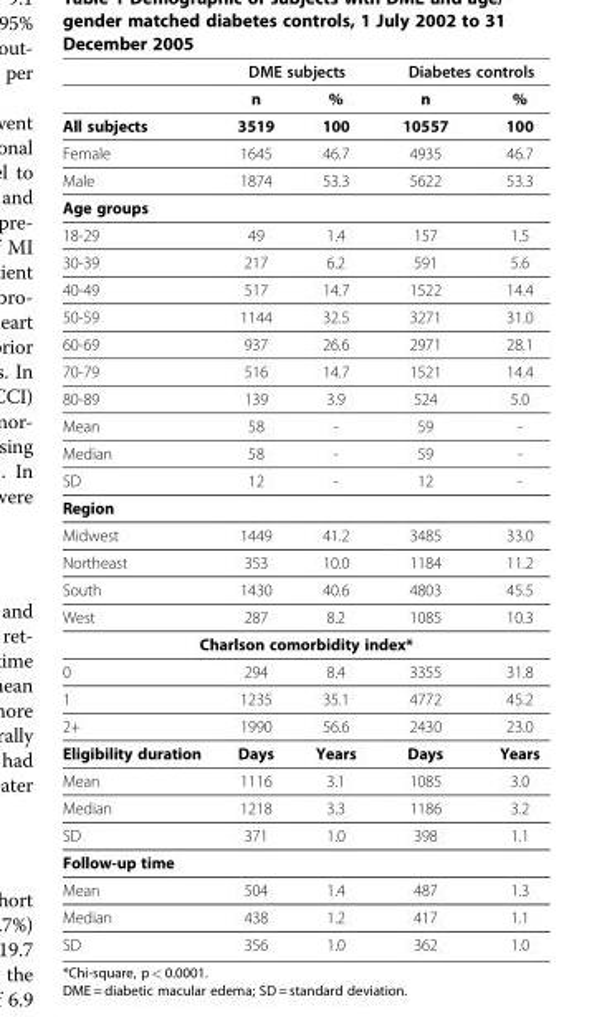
<table><thead><tr><td rowspan="2"></td><td colspan="2">DME subjects</td><td colspan="2">Diabetes controls</td></tr><tr><td>n</td><td>%</td><td>n</td><td>%</td></tr></thead><tbody><tr><td>All subjects</td><td>3519</td><td>100</td><td>10557</td><td>100</td></tr><tr><td>Female</td><td>1645</td><td>46.7</td><td>4935</td><td>46.7</td></tr><tr><td>Male</td><td>1874</td><td>53.3</td><td>5622</td><td>53.3</td></tr><tr><td colspan="5">Age groups</td></tr><tr><td>18-29</td><td>49</td><td>1.4</td><td>157</td><td>1.5</td></tr><tr><td>30-39</td><td>217</td><td>6.2</td><td>591</td><td>5.6</td></tr><tr><td>40-49</td><td>517</td><td>14.7</td><td>1522</td><td>14.4</td></tr><tr><td>50-59</td><td>1144</td><td>32.5</td><td>3271</td><td>31.0</td></tr><tr><td>60-69</td><td>937</td><td>26.6</td><td>2971</td><td>28.1</td></tr><tr><td>70-79</td><td>516</td><td>14.7</td><td>1521</td><td>14.4</td></tr><tr><td>80-89</td><td>139</td><td>3.9</td><td>524</td><td>5.0</td></tr><tr><td>Mean</td><td>58</td><td>-</td><td>59</td><td>-</td></tr><tr><td>Median</td><td>58</td><td>-</td><td>59</td><td>-</td></tr><tr><td>SD</td><td>12</td><td>-</td><td>12</td><td>-</td></tr><tr><td colspan="5">Region</td></tr><tr><td>Midwest</td><td>1449</td><td>41.2</td><td>3485</td><td>33.0</td></tr><tr><td>Northeast</td><td>353</td><td>10.0</td><td>1184</td><td>11.2</td></tr><tr><td>South</td><td>1430</td><td>40.6</td><td>4803</td><td>45.5</td></tr><tr><td>West</td><td>287</td><td>8.2</td><td>1085</td><td>10.3</td></tr><tr><td colspan="5">Charlson comorbidity index*</td></tr><tr><td>0</td><td>294</td><td>8.4</td><td>3355</td><td>31.8</td></tr><tr><td>1</td><td>1235</td><td>35.1</td><td>4772</td><td>45.2</td></tr><tr><td>2+</td><td>1990</td><td>56.6</td><td>2430</td><td>23.0</td></tr><tr><td>Eligibility duration</td><td>Days</td><td>Years</td><td>Days</td><td>Years</td></tr><tr><td>Mean</td><td>1116</td><td>3.1</td><td>1085</td><td>3.0</td></tr><tr><td>Median</td><td>1218</td><td>3.3</td><td>1186</td><td>3.2</td></tr><tr><td>SD</td><td>371</td><td>1.0</td><td>398</td><td>1.1</td></tr><tr><td colspan="5">Follow-up time</td></tr><tr><td>Mean</td><td>504</td><td>1.4</td><td>487</td><td>1.3</td></tr><tr><td>Median</td><td>438</td><td>1.2</td><td>417</td><td>1.1</td></tr><tr><td>SD</td><td>356</td><td>1.0</td><td>362</td><td>1.0</td></tr></tbody></table>